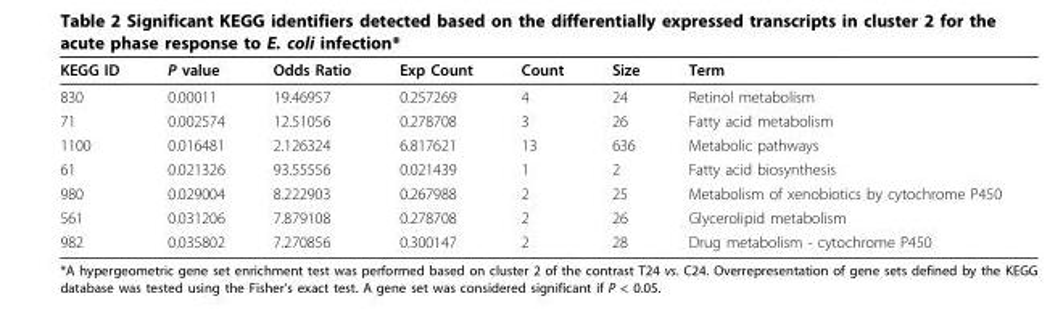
<table><thead><tr><td>KEGG ID</td><td>P value</td><td>Odds Ratio</td><td>Exp Count</td><td>Count</td><td>Size</td><td>Term</td></tr></thead><tbody><tr><td>830</td><td>0.00011</td><td>19.46957</td><td>0.257269</td><td>4</td><td>24</td><td>Retinol metabolism</td></tr><tr><td>71</td><td>0.002574</td><td>12.51056</td><td>0.278708</td><td>3</td><td>26</td><td>Fatty acid metabolism</td></tr><tr><td>1100</td><td>0.016481</td><td>2.126324</td><td>6.817621</td><td>13</td><td>636</td><td>Metabolic pathways</td></tr><tr><td>61</td><td>0.021326</td><td>93.55556</td><td>0.021439</td><td>1</td><td>2</td><td>Fatty acid biosynthesis</td></tr><tr><td>980</td><td>0.029004</td><td>8.222903</td><td>0.267988</td><td>2</td><td>25</td><td>Metabolism of xenobiotics by cytochrome P450</td></tr><tr><td>561</td><td>0.031206</td><td>7.879108</td><td>0.278708</td><td>2</td><td>26</td><td>Glycerolipid metabolism</td></tr><tr><td>982</td><td>0.035802</td><td>7.270856</td><td>0.300147</td><td>2</td><td>28</td><td>Drug metabolism - cytochrome P450</td></tr></tbody></table>